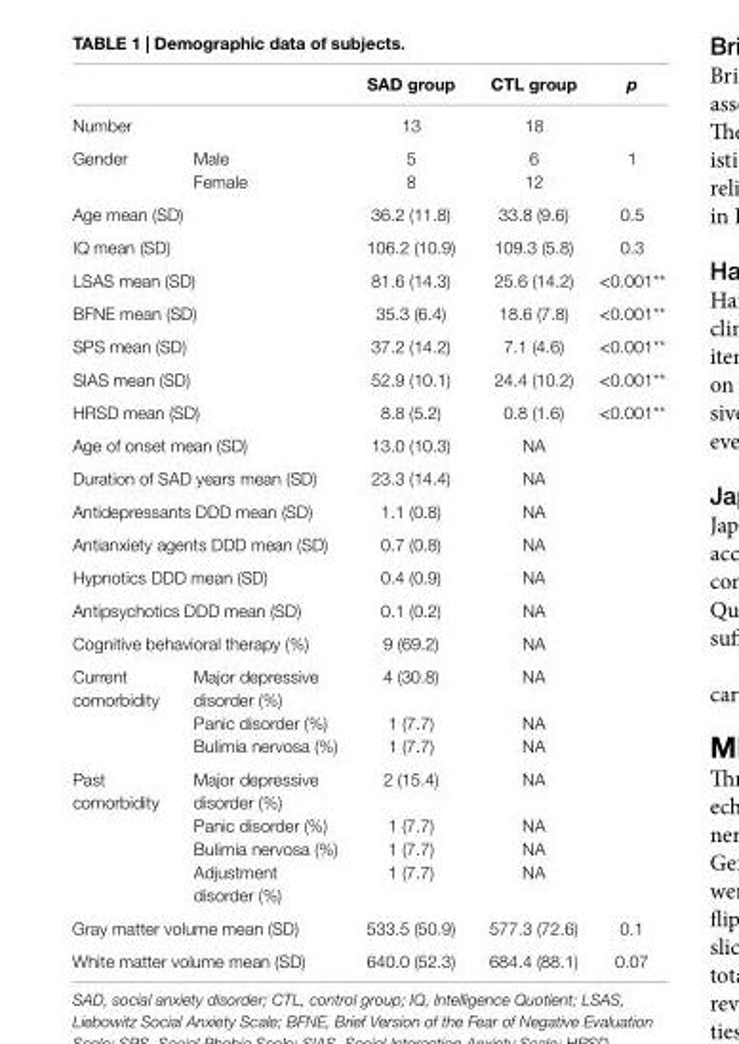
<table><thead><tr><td></td><td></td><td>saD group</td><td>cTl group</td><td>p</td></tr></thead><tbody><tr><td colspan="2">Number</td><td>13</td><td>18</td><td></td></tr><tr><td rowspan="2">Gender</td><td>Male</td><td>5</td><td>6</td><td>1</td></tr><tr><td>Female</td><td>8</td><td>12</td><td></td></tr><tr><td colspan="2">Age mean (SD)</td><td>36.2 (11.8)</td><td>33.8 (9.6)</td><td>0.5</td></tr><tr><td colspan="2">IQ mean (SD)</td><td>106.2 (10.9)</td><td>109.3 (5.8)</td><td>0.3</td></tr><tr><td colspan="2">LSAS mean (SD)</td><td>81.6 (14.3)</td><td>25.6 (14.2)</td><td>&lt;0.001**</td></tr><tr><td colspan="2">BFNE mean (SD)</td><td>35.3 (6.4)</td><td>18.6 (7.8)</td><td>&lt;0.001**</td></tr><tr><td colspan="2">SPS mean (SD)</td><td>37.2 (14.2)</td><td>7.1 (4.6)</td><td>&lt;0.001**</td></tr><tr><td colspan="2">SIAS mean (SD)</td><td>52.9 (10.1)</td><td>24.4 (10.2)</td><td>&lt;0.001**</td></tr><tr><td colspan="2">HRSD mean (SD)</td><td>8.8 (5.2)</td><td>0.8 (1.6)</td><td>&lt;0.001**</td></tr><tr><td colspan="2">Age of onset mean (SD)</td><td>13.0 (10.3)</td><td>NA</td><td></td></tr><tr><td colspan="2">Duration of SAD years mean (SD)</td><td>23.3 (14.4)</td><td>NA</td><td></td></tr><tr><td colspan="2">Antidepressants DDD mean (SD)</td><td>1.1 (0.8)</td><td>NA</td><td></td></tr><tr><td colspan="2">Antianxiety agents DDD mean (SD)</td><td>0.7 (0.8)</td><td>NA</td><td></td></tr><tr><td colspan="2">Hypnotics DDD mean (SD)</td><td>0.4 (0.9)</td><td>NA</td><td></td></tr><tr><td colspan="2">Antipsychotics DDD mean (SD)</td><td>0.1 (0.2)</td><td>NA</td><td></td></tr><tr><td colspan="2">Cognitive behavioral therapy (%)</td><td>9 (69.2)</td><td>NA</td><td></td></tr><tr><td rowspan="3">Current comorbidity</td><td>Major depressive disorder (%)</td><td>4 (30.8)</td><td>NA</td><td></td></tr><tr><td>Panic disorder (%)</td><td>1 (7.7)</td><td>NA</td><td></td></tr><tr><td>Bulimia nervosa (%)</td><td>1 (7.7)</td><td>NA</td><td></td></tr><tr><td rowspan="4">Past comorbidity</td><td>Major depressive disorder (%)</td><td>2 (15.4)</td><td>NA</td><td></td></tr><tr><td>Panic disorder (%)</td><td>1 (7.7)</td><td>NA</td><td></td></tr><tr><td>Bulimia nervosa (%)</td><td>1 (7.7)</td><td>NA</td><td></td></tr><tr><td>Adjustment disorder (%)</td><td>1 (7.7)</td><td>NA</td><td></td></tr><tr><td colspan="2">Gray matter volume mean (SD)</td><td>533.5 (50.9)</td><td>577.3 (72.6)</td><td>0.1</td></tr><tr><td colspan="2">White matter volume mean (SD)</td><td>640.0 (52.3)</td><td>684.4 (88.1)</td><td>0.07</td></tr></tbody></table>